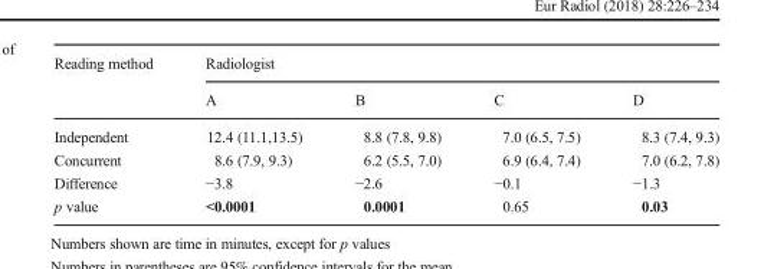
<table><thead><tr><td rowspan="2">Reading method</td><td colspan="4">Radiologist</td></tr><tr><td>A</td><td>B</td><td>C</td><td>D</td></tr></thead><tbody><tr><td>Independent</td><td>12.4 (11.1,13.5)</td><td>8.8 (7.8, 9.8)</td><td>7.0 (6.5, 7.5)</td><td>8.3 (7.4, 9.3)</td></tr><tr><td>Concurrent</td><td>8.6 (7.9, 9.3)</td><td>6.2 (5.5, 7.0)</td><td>6.9 (6.4, 7.4)</td><td>7.0 (6.2, 7.8)</td></tr><tr><td>Difference</td><td>−3.8</td><td>−2.6</td><td>−0.1</td><td>−1.3</td></tr><tr><td>p value</td><td>&lt;0.0001</td><td>0.0001</td><td>0.65</td><td>0.03</td></tr></tbody></table>